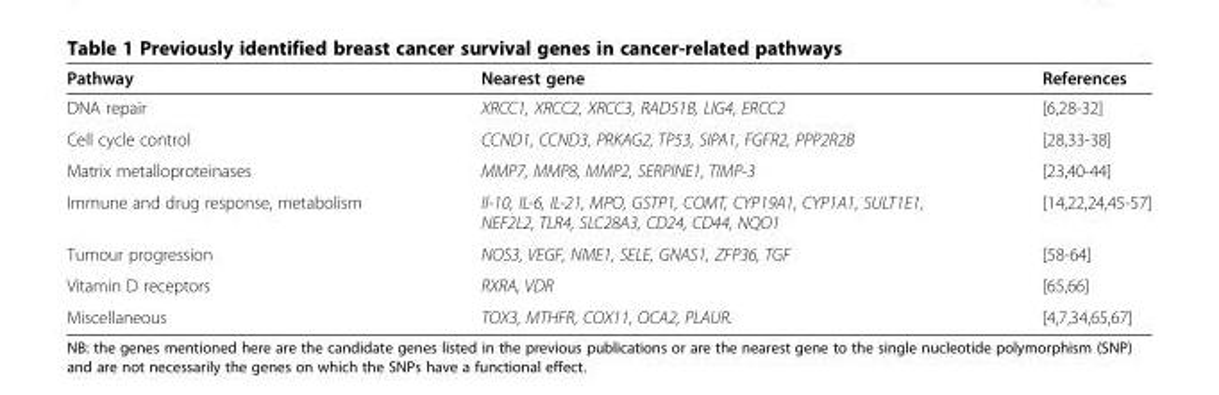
<table><thead><tr><td>Pathway</td><td>Nearest gene</td><td>References</td></tr></thead><tbody><tr><td>DNA repair</td><td>XRCC1, XRCC2, XRCC3, RAD51B, LIG4, ERCC2</td><td>[6,28-32]</td></tr><tr><td>Cell cycle control</td><td>CCND1, CCND3, PRKAG2, TP53, SIPA1, FGFR2, PPP2R2B</td><td>[28,33-38]</td></tr><tr><td>Matrix metalloproteinases</td><td>MMP7, MMP8, MMP2, SERPINE1, TIMP-3</td><td>[23,40-44]</td></tr><tr><td>Immune and drug response, metabolism</td><td>Il-10, IL-6, IL-21, MPO, GSTP1, COMT, CYP19A1, CYP1A1, SULT1E1, NEF2L2, TLR4, SLC28A3, CD24, CD44, NQO1</td><td>[14,22,24,45-57]</td></tr><tr><td>Tumour progression</td><td>NOS3, VEGF, NME1, SELE, GNAS1, ZFP36, TGF</td><td>[58-64]</td></tr><tr><td>Vitamin D receptors</td><td>RXRA, VDR</td><td>[65,66]</td></tr><tr><td>Miscellaneous</td><td>TOX3, MTHFR, COX11, OCA2, PLAUR.</td><td>[4,7,34,65,67]</td></tr></tbody></table>